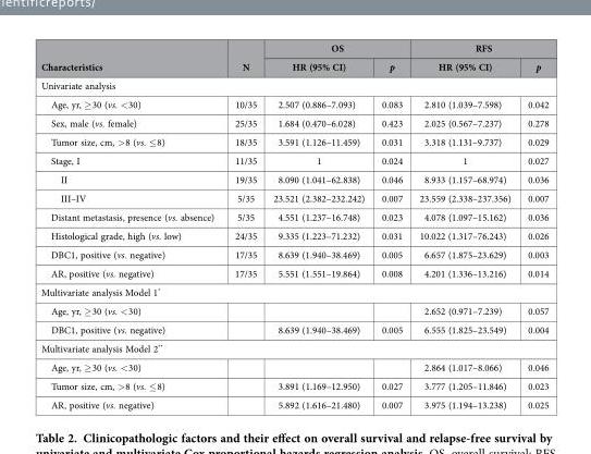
<table><thead><tr><td rowspan="2">Characteristics</td><td rowspan="2">N</td><td colspan="2">OS</td><td colspan="2">RFS</td></tr><tr><td>HR (95% CI)</td><td>p</td><td>HR (95% CI)</td><td>p</td></tr></thead><tbody><tr><td colspan="6">Univariate analysis</td></tr><tr><td>Age, yr, ≥ 30 (vs. &lt; 30)</td><td>10/35</td><td>2.507 (0.886–7.093)</td><td>0.083</td><td>2.810 (1.039–7.598)</td><td>0.042</td></tr><tr><td>Sex, male (vs. female)</td><td>25/35</td><td>1.684 (0.470–6.028)</td><td>0.423</td><td>2.025 (0.567–7.237)</td><td>0.278</td></tr><tr><td>Tumor size, cm, &gt; 8 (vs. ≤ 8)</td><td>18/35</td><td>3.591 (1.126–11.459)</td><td>0.031</td><td>3.318 (1.131–9.737)</td><td>0.029</td></tr><tr><td>Stage, I</td><td>11/35</td><td>1</td><td>0.024</td><td>1</td><td>0.027</td></tr><tr><td>II</td><td>19/35</td><td>8.090 (1.041–62.838)</td><td>0.046</td><td>8.933 (1.157–68.974)</td><td>0.036</td></tr><tr><td>III–IV</td><td>5/35</td><td>23.521 (2.382–232.242)</td><td>0.007</td><td>23.559 (2.338–237.356)</td><td>0.007</td></tr><tr><td>Distant metastasis, presence (vs. absence)</td><td>5/35</td><td>4.551 (1.237–16.748)</td><td>0.023</td><td>4.078 (1.097–15.162)</td><td>0.036</td></tr><tr><td>Histological grade, high (vs. low)</td><td>24/35</td><td>9.335 (1.223–71.232)</td><td>0.031</td><td>10.022 (1.317–76.243)</td><td>0.026</td></tr><tr><td>DBC1, positive (vs. negative)</td><td>17/35</td><td>8.639 (1.940–38.469)</td><td>0.005</td><td>6.657 (1.875–23.629)</td><td>0.003</td></tr><tr><td>AR, positive (vs. negative)</td><td>17/35</td><td>5.551 (1.551–19.864)</td><td>0.008</td><td>4.201 (1.336–13.216)</td><td>0.014</td></tr><tr><td colspan="6">Multivariate analysis Model 1*</td></tr><tr><td>Age, yr, ≥ 30 (vs. &lt; 30)</td><td></td><td></td><td></td><td>2.652 (0.971–7.239)</td><td>0.057</td></tr><tr><td>DBC1, positive (vs. negative)</td><td></td><td>8.639 (1.940–38.469)</td><td>0.005</td><td>6.555 (1.825–23.549)</td><td>0.004</td></tr><tr><td colspan="6">Multivariate analysis Model 2**</td></tr><tr><td>Age, yr, ≥ 30 (vs. &lt; 30)</td><td></td><td></td><td></td><td>2.864 (1.017–8.066)</td><td>0.046</td></tr><tr><td>Tumor size, cm, &gt; 8 (vs. ≤ 8)</td><td></td><td>3.891 (1.169–12.950)</td><td>0.027</td><td>3.777 (1.205–11.846)</td><td>0.023</td></tr><tr><td>AR, positive (vs. negative)</td><td></td><td>5.892 (1.616–21.480)</td><td>0.007</td><td>3.975 (1.194–13.238)</td><td>0.025</td></tr></tbody></table>